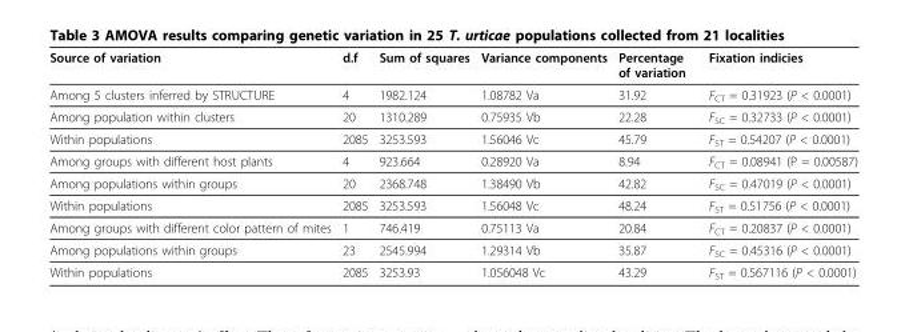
<table><thead><tr><td>Source of variation</td><td>d.f</td><td>Sum of squares</td><td>Variance components</td><td>Percentage of variation</td><td>Fixation indicies</td></tr></thead><tbody><tr><td>Among 5 clusters inferred by STRUCTURE</td><td>4</td><td>1982.124</td><td>1.08782 Va</td><td>31.92</td><td>F<sub>CT</sub> = 0.31923 (P &lt; 0.0001)</td></tr><tr><td>Among population within clusters</td><td>20</td><td>1310.289</td><td>0.75935 Vb</td><td>22.28</td><td>F<sub>SC</sub> = 0.32733 (P &lt; 0.0001)</td></tr><tr><td>Within populations</td><td>2085</td><td>3253.593</td><td>1.56046 Vc</td><td>45.79</td><td>F<sub>ST</sub> = 0.54207 (P &lt; 0.0001)</td></tr><tr><td>Among groups with different host plants</td><td>4</td><td>923.664</td><td>0.28920 Va</td><td>8.94</td><td>F<sub>CT</sub> = 0.08941 (P = 0.00587)</td></tr><tr><td>Among populations within groups</td><td>20</td><td>2368.748</td><td>1.38490 Vb</td><td>42.82</td><td>F<sub>SC</sub> = 0.47019 (P &lt; 0.0001)</td></tr><tr><td>Within populations</td><td>2085</td><td>3253.593</td><td>1.56048 Vc</td><td>48.24</td><td>F<sub>ST</sub> = 0.51756 (P &lt; 0.0001)</td></tr><tr><td>Among groups with different color pattern of mites</td><td>1</td><td>746.419</td><td>0.75113 Va</td><td>20.84</td><td>F<sub>CT</sub> = 0.20837 (P &lt; 0.0001)</td></tr><tr><td>Among populations within groups</td><td>23</td><td>2545.994</td><td>1.29314 Vb</td><td>35.87</td><td>F<sub>SC</sub> = 0.45316 (P &lt; 0.0001)</td></tr><tr><td>Within populations</td><td>2085</td><td>3253.93</td><td>1.056048 Vc</td><td>43.29</td><td>F<sub>ST</sub> = 0.567116 (P &lt; 0.0001)</td></tr></tbody></table>